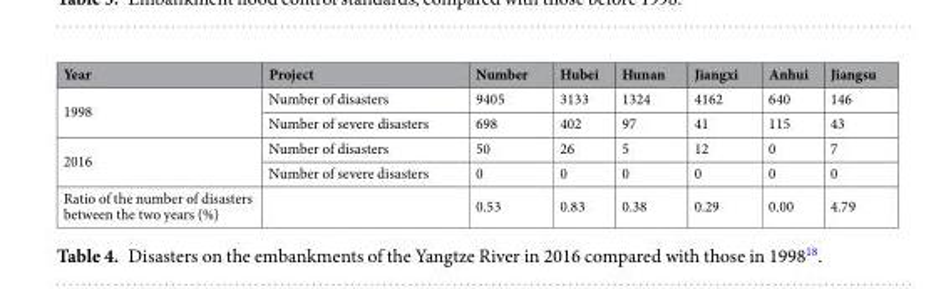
<table><thead><tr><td>Year</td><td>Project</td><td>Number</td><td>Hubei</td><td>Hunan</td><td>Jiangxi</td><td>Anhui</td><td>Jiangsu</td></tr></thead><tbody><tr><td rowspan="2">1998</td><td>Number of disasters</td><td>9405</td><td>3133</td><td>1324</td><td>4162</td><td>640</td><td>146</td></tr><tr><td>Number of severe disasters</td><td>698</td><td>402</td><td>97</td><td>41</td><td>115</td><td>43</td></tr><tr><td rowspan="2">2016</td><td>Number of disasters</td><td>50</td><td>26</td><td>5</td><td>12</td><td>0</td><td>7</td></tr><tr><td>Number of severe disasters</td><td>0</td><td>0</td><td>0</td><td>0</td><td>0</td><td>0</td></tr><tr><td>Ratio of the number of disasters between the two years (%)</td><td></td><td>0.53</td><td>0.83</td><td>0.38</td><td>0.29</td><td>0.00</td><td>4.79</td></tr></tbody></table>